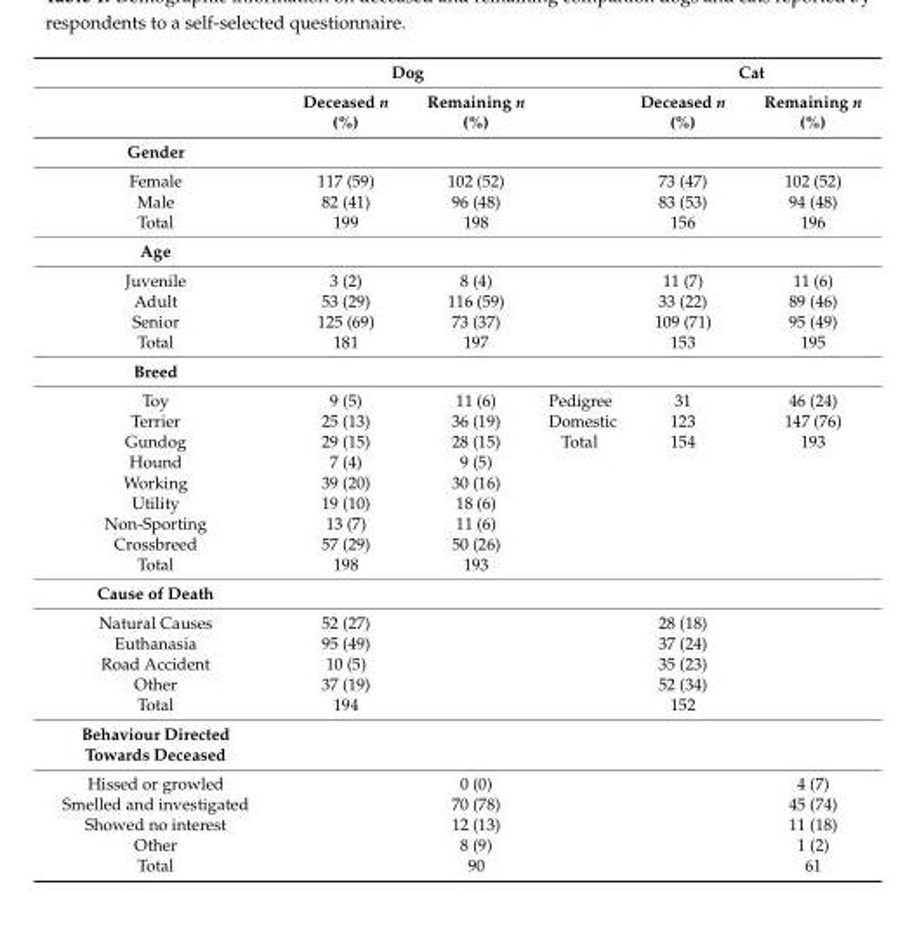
<table><thead><tr><td rowspan="2"></td><td colspan="2">Dog</td><td rowspan="2"></td><td colspan="2">Cat</td></tr><tr><td>Deceased n (%)</td><td>Remaining n (%)</td><td>Deceased n (%)</td><td>Remaining n (%)</td></tr></thead><tbody><tr><td colspan="6">Gender</td></tr><tr><td>Female</td><td>117 (59)</td><td>102 (52)</td><td></td><td>73 (47)</td><td>102 (52)</td></tr><tr><td>Male</td><td>82 (41)</td><td>96 (48)</td><td></td><td>83 (53)</td><td>94 (48)</td></tr><tr><td>Total</td><td>199</td><td>198</td><td></td><td>156</td><td>196</td></tr><tr><td colspan="6">Age</td></tr><tr><td>Juvenile</td><td>3 (2)</td><td>8 (4)</td><td></td><td>11 (7)</td><td>11 (6)</td></tr><tr><td>Adult</td><td>53 (29)</td><td>116 (59)</td><td></td><td>33 (22)</td><td>89 (46)</td></tr><tr><td>Senior</td><td>125 (69)</td><td>73 (37)</td><td></td><td>109 (71)</td><td>95 (49)</td></tr><tr><td>Total</td><td>181</td><td>197</td><td></td><td>153</td><td>195</td></tr><tr><td colspan="6">Breed</td></tr><tr><td>Toy</td><td>9 (5)</td><td>11 (6)</td><td>Pedigree</td><td>31</td><td>46 (24)</td></tr><tr><td>Terrier</td><td>25 (13)</td><td>36 (19)</td><td>Domestic</td><td>123</td><td>147 (76)</td></tr><tr><td>Gundog</td><td>29 (15)</td><td>28 (15)</td><td>Total</td><td>154</td><td>193</td></tr><tr><td>Hound</td><td>7 (4)</td><td>9 (5)</td><td></td><td></td><td></td></tr><tr><td>Working</td><td>39 (20)</td><td>30 (16)</td><td></td><td></td><td></td></tr><tr><td>Utility</td><td>19 (10)</td><td>18 (6)</td><td></td><td></td><td></td></tr><tr><td>Non-Sporting</td><td>13 (7)</td><td>11 (6)</td><td></td><td></td><td></td></tr><tr><td>Crossbreed</td><td>57 (29)</td><td>50 (26)</td><td></td><td></td><td></td></tr><tr><td>Total</td><td>198</td><td>193</td><td></td><td></td><td></td></tr><tr><td colspan="6">Cause of Death</td></tr><tr><td>Natural Causes</td><td>52 (27)</td><td></td><td></td><td>28 (18)</td><td></td></tr><tr><td>Euthanasia</td><td>95 (49)</td><td></td><td></td><td>37 (24)</td><td></td></tr><tr><td>Road Accident</td><td>10 (5)</td><td></td><td></td><td>35 (23)</td><td></td></tr><tr><td>Other</td><td>37 (19)</td><td></td><td></td><td>52 (34)</td><td></td></tr><tr><td>Total</td><td>194</td><td></td><td></td><td>152</td><td></td></tr><tr><td colspan="6">Behaviour Directed Towards Deceased</td></tr><tr><td>Hissed or growled</td><td></td><td>0 (0)</td><td></td><td></td><td>4 (7)</td></tr><tr><td>Smelled and investigated</td><td></td><td>70 (78)</td><td></td><td></td><td>45 (74)</td></tr><tr><td>Showed no interest</td><td></td><td>12 (13)</td><td></td><td></td><td>11 (18)</td></tr><tr><td>Other</td><td></td><td>8 (9)</td><td></td><td></td><td>1 (2)</td></tr><tr><td>Total</td><td></td><td>90</td><td></td><td></td><td>61</td></tr></tbody></table>